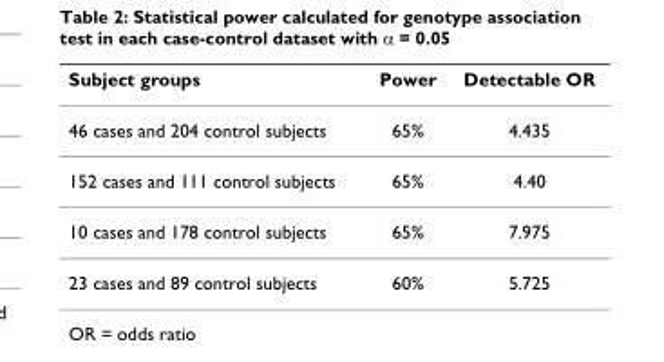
<table><thead><tr><td>Subject groups</td><td>Power</td><td>Detectable OR</td></tr></thead><tbody><tr><td>46 cases and 204 control subjects</td><td>65%</td><td>4.435</td></tr><tr><td>152 cases and 111 control subjects</td><td>65%</td><td>4.40</td></tr><tr><td>10 cases and 178 control subjects</td><td>65%</td><td>7.975</td></tr><tr><td>23 cases and 89 control subjects</td><td>60%</td><td>5.725</td></tr></tbody></table>